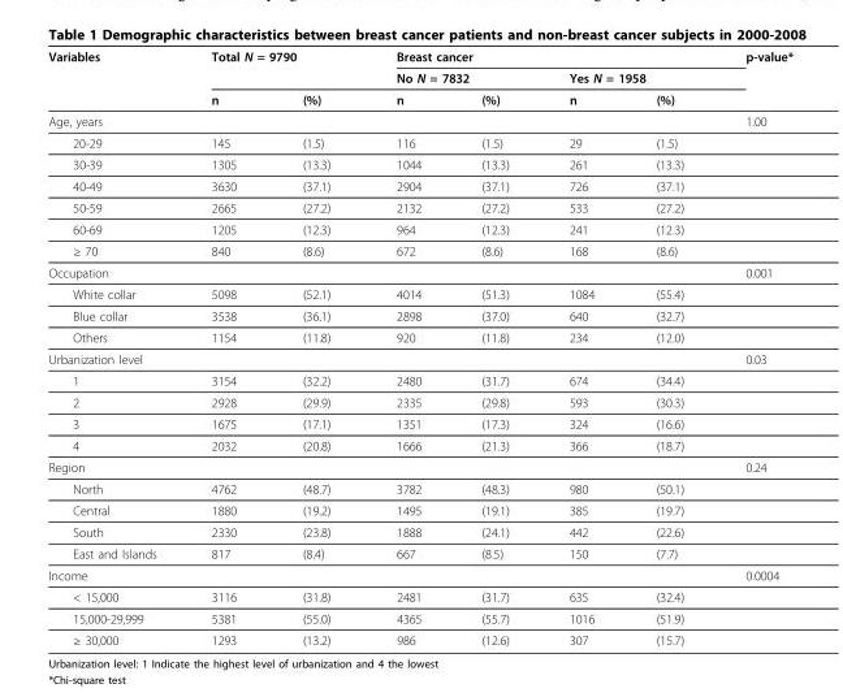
<table><thead><tr><td rowspan="3">Variables</td><td colspan="2">Total N = 9790</td><td colspan="4">Breast cancer</td><td rowspan="3">p-value*</td></tr><tr><td rowspan="2">n</td><td rowspan="2">(%)</td><td colspan="2">No N = 7832</td><td colspan="2">Yes N = 1958</td></tr><tr><td>n</td><td>(%)</td><td>n</td><td>(%)</td></tr></thead><tbody><tr><td>Age, years</td><td></td><td></td><td></td><td></td><td></td><td></td><td>1.00</td></tr><tr><td>20-29</td><td>145</td><td>(1.5)</td><td>116</td><td>(1.5)</td><td>29</td><td>(1.5)</td><td></td></tr><tr><td>30-39</td><td>1305</td><td>(13.3)</td><td>1044</td><td>(13.3)</td><td>261</td><td>(13.3)</td><td></td></tr><tr><td>40-49</td><td>3630</td><td>(37.1)</td><td>2904</td><td>(37.1)</td><td>726</td><td>(37.1)</td><td></td></tr><tr><td>50-59</td><td>2665</td><td>(27.2)</td><td>2132</td><td>(27.2)</td><td>533</td><td>(27.2)</td><td></td></tr><tr><td>60-69</td><td>1205</td><td>(12.3)</td><td>964</td><td>(12.3)</td><td>241</td><td>(12.3)</td><td></td></tr><tr><td>≥ 70</td><td>840</td><td>(8.6)</td><td>672</td><td>(8.6)</td><td>168</td><td>(8.6)</td><td></td></tr><tr><td>Occupation</td><td></td><td></td><td></td><td></td><td></td><td></td><td>0.001</td></tr><tr><td>White collar</td><td>5098</td><td>(52.1)</td><td>4014</td><td>(51.3)</td><td>1084</td><td>(55.4)</td><td></td></tr><tr><td>Blue collar</td><td>3538</td><td>(36.1)</td><td>2898</td><td>(37.0)</td><td>640</td><td>(32.7)</td><td></td></tr><tr><td>Others</td><td>1154</td><td>(11.8)</td><td>920</td><td>(11.8)</td><td>234</td><td>(12.0)</td><td></td></tr><tr><td>Urbanization level</td><td></td><td></td><td></td><td></td><td></td><td></td><td>0.03</td></tr><tr><td>1</td><td>3154</td><td>(32.2)</td><td>2480</td><td>(31.7)</td><td>674</td><td>(34.4)</td><td></td></tr><tr><td>2</td><td>2928</td><td>(29.9)</td><td>2335</td><td>(29.8)</td><td>593</td><td>(30.3)</td><td></td></tr><tr><td>3</td><td>1675</td><td>(17.1)</td><td>1351</td><td>(17.3)</td><td>324</td><td>(16.6)</td><td></td></tr><tr><td>4</td><td>2032</td><td>(20.8)</td><td>1666</td><td>(21.3)</td><td>366</td><td>(18.7)</td><td></td></tr><tr><td>Region</td><td></td><td></td><td></td><td></td><td></td><td></td><td>0.24</td></tr><tr><td>North</td><td>4762</td><td>(48.7)</td><td>3782</td><td>(48.3)</td><td>980</td><td>(50.1)</td><td></td></tr><tr><td>Central</td><td>1880</td><td>(19.2)</td><td>1495</td><td>(19.1)</td><td>385</td><td>(19.7)</td><td></td></tr><tr><td>South</td><td>2330</td><td>(23.8)</td><td>1888</td><td>(24.1)</td><td>442</td><td>(22.6)</td><td></td></tr><tr><td>East and Islands</td><td>817</td><td>(8.4)</td><td>667</td><td>(8.5)</td><td>150</td><td>(7.7)</td><td></td></tr><tr><td>Income</td><td></td><td></td><td></td><td></td><td></td><td></td><td>0.0004</td></tr><tr><td>&lt; 15,000</td><td>3116</td><td>(31.8)</td><td>2481</td><td>(31.7)</td><td>635</td><td>(32.4)</td><td></td></tr><tr><td>15,000-29,999</td><td>5381</td><td>(55.0)</td><td>4365</td><td>(55.7)</td><td>1016</td><td>(51.9)</td><td></td></tr><tr><td>≥ 30,000</td><td>1293</td><td>(13.2)</td><td>986</td><td>(12.6)</td><td>307</td><td>(15.7)</td><td></td></tr></tbody></table>